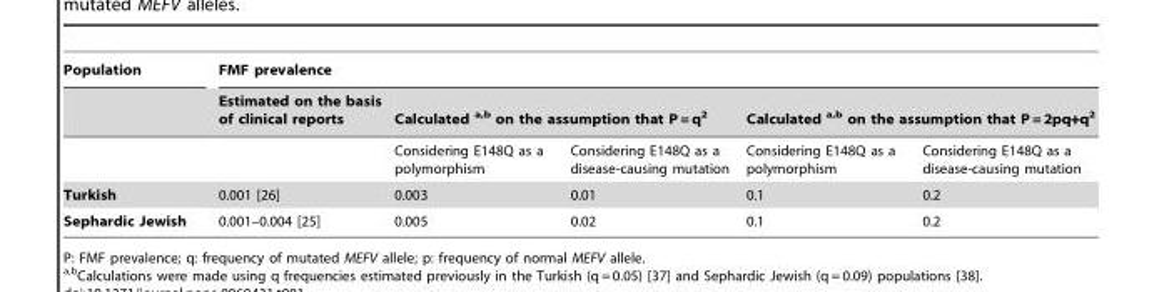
<table><thead><tr><td rowspan="3">Population</td><td colspan="5">FMF prevalence</td></tr><tr><td rowspan="2">Estimated on the basis of clinical reports</td><td colspan="2">Calculated a,b on the assumption that P = q<sup>2</sup></td><td colspan="2">Calculated a,b on the assumption that P = 2pq+q<sup>2</sup></td></tr><tr><td>Considering E148Q as a polymorphism</td><td>Considering E148Q as a disease-causing mutation</td><td>Considering E148Q as a polymorphism</td><td>Considering E148Q as a disease-causing mutation</td></tr></thead><tbody><tr><td>Turkish</td><td>0.001 [26]</td><td>0.003</td><td>0.01</td><td>0.1</td><td>0.2</td></tr><tr><td>Sephardic Jewish</td><td>0.001–0.004 [25]</td><td>0.005</td><td>0.02</td><td>0.1</td><td>0.2</td></tr></tbody></table>